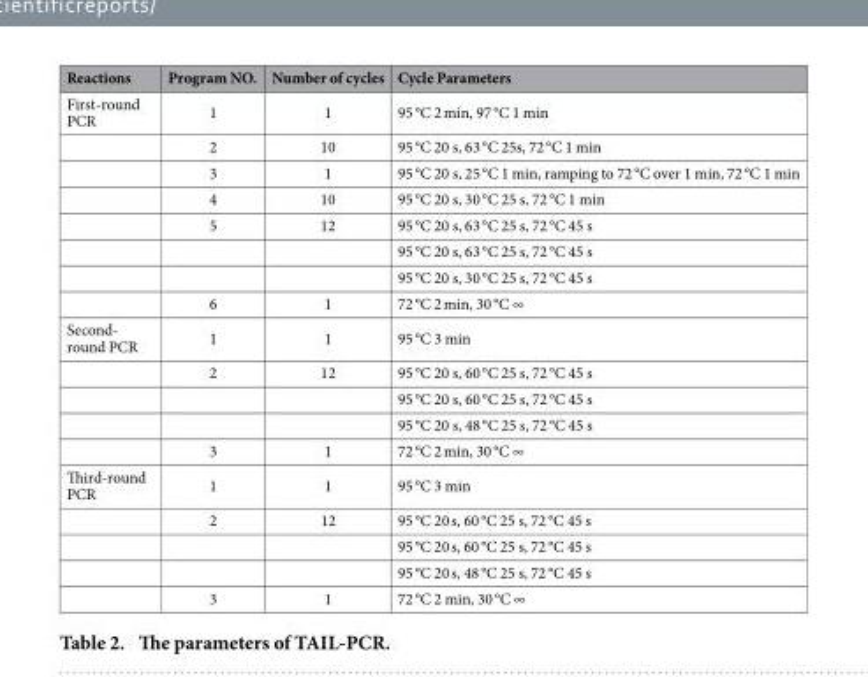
<table><thead><tr><td>Reactions</td><td>Program NO.</td><td>Number of cycles</td><td>Cycle Parameters</td></tr></thead><tbody><tr><td rowspan="8">First-round PCR</td><td>1</td><td>1</td><td>95 °C 2 min, 97 °C 1 min</td></tr><tr><td>2</td><td>10</td><td>95 °C 20 s, 63 °C 25s, 72 °C 1 min</td></tr><tr><td>3</td><td>1</td><td>95 °C 20 s, 25 °C 1 min, ramping to 72 °C over 1 min, 72 °C 1 min</td></tr><tr><td>4</td><td>10</td><td>95 °C 20 s, 30 °C 25 s, 72 °C 1 min</td></tr><tr><td>5</td><td>12</td><td>95 °C 20 s, 63 °C 25 s, 72 °C 45 s</td></tr><tr><td></td><td></td><td>95 °C 20 s, 63 °C 25 s, 72 °C 45 s</td></tr><tr><td></td><td></td><td>95 °C 20 s, 30 °C 25 s, 72 °C 45 s</td></tr><tr><td>6</td><td>1</td><td>72 °C 2 min, 30 °C ∞</td></tr><tr><td rowspan="5">Second- round PCR</td><td>1</td><td>1</td><td>95 °C 3 min</td></tr><tr><td>2</td><td>12</td><td>95 °C 20 s, 60 °C 25 s, 72 °C 45 s</td></tr><tr><td></td><td></td><td>95 °C 20 s, 60 °C 25 s, 72 °C 45 s</td></tr><tr><td></td><td></td><td>95 °C 20 s, 48 °C 25 s, 72 °C 45 s</td></tr><tr><td>3</td><td>1</td><td>72 °C 2 min, 30 °C ∞</td></tr><tr><td rowspan="5">Third-round PCR</td><td>1</td><td>1</td><td>95 °C 3 min</td></tr><tr><td>2</td><td>12</td><td>95 °C 20 s, 60 °C 25 s, 72 °C 45 s</td></tr><tr><td></td><td></td><td>95 °C 20 s, 60 °C 25 s, 72 °C 45 s</td></tr><tr><td></td><td></td><td>95 °C 20 s, 48 °C 25 s, 72 °C 45 s</td></tr><tr><td>3</td><td>1</td><td>72 °C 2 min, 30 °C ∞</td></tr></tbody></table>